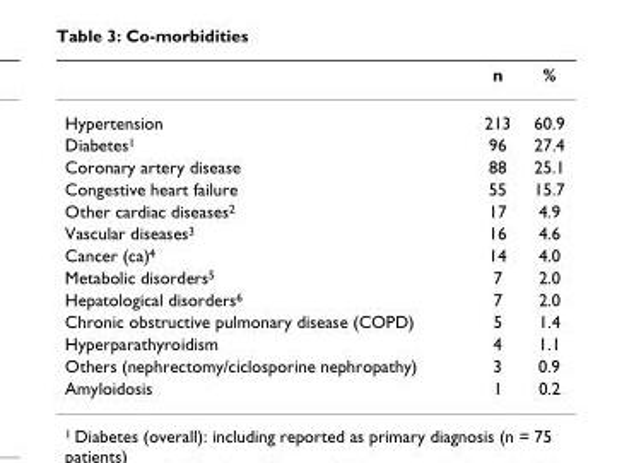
<table><thead><tr><td></td><td>n</td><td>%</td></tr></thead><tbody><tr><td>Hypertension</td><td>213</td><td>60.9</td></tr><tr><td>Diabetes<sup>1</sup></td><td>96</td><td>27.4</td></tr><tr><td>Coronary artery disease</td><td>88</td><td>25.1</td></tr><tr><td>Congestive heart failure</td><td>55</td><td>15.7</td></tr><tr><td>Other cardiac diseases<sup>2</sup></td><td>17</td><td>4.9</td></tr><tr><td>Vascular diseases<sup>3</sup></td><td>16</td><td>4.6</td></tr><tr><td>Cancer (ca)<sup>4</sup></td><td>14</td><td>4.0</td></tr><tr><td>Metabolic disorders<sup>5</sup></td><td>7</td><td>2.0</td></tr><tr><td>Hepatological disorders<sup>6</sup></td><td>7</td><td>2.0</td></tr><tr><td>Chronic obstructive pulmonary disease (COPD)</td><td>5</td><td>1.4</td></tr><tr><td>Hyperparathyroidism</td><td>4</td><td>1.1</td></tr><tr><td>Others (nephrectomy/ciclosporine nephropathy)</td><td>3</td><td>0.9</td></tr><tr><td>Amyloidosis</td><td>1</td><td>0.2</td></tr></tbody></table>